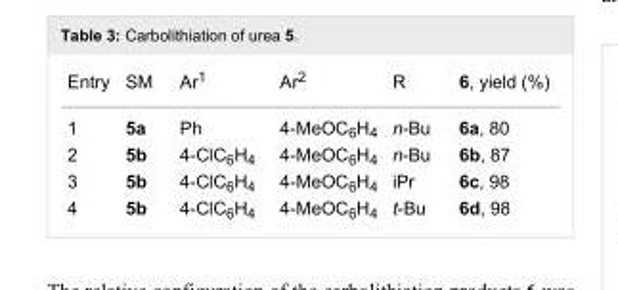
<table><tbody><tr><td>Entry</td><td>SM</td><td>Ar<sup>1</sup></td><td>Ar<sup>2</sup></td><td>R</td><td>6, yield (%)</td></tr><tr><td>1</td><td>5a</td><td>Ph</td><td>4-MeOC<sub>6</sub>H<sub>4</sub></td><td>n-Bu</td><td>6a, 80</td></tr><tr><td>2</td><td>5b</td><td>4-ClC<sub>6</sub>H<sub>4</sub></td><td>4-MeOC<sub>6</sub>H<sub>4</sub></td><td>n-Bu</td><td>6b, 87</td></tr><tr><td>3</td><td>5b</td><td>4-ClC<sub>6</sub>H<sub>4</sub></td><td>4-MeOC<sub>6</sub>H<sub>4</sub></td><td>iPr</td><td>6c, 98</td></tr><tr><td>4</td><td>5b</td><td>4-ClC<sub>6</sub>H<sub>4</sub></td><td>4-MeOC<sub>6</sub>H<sub>4</sub></td><td>t-Bu</td><td>6d, 98</td></tr></tbody></table>